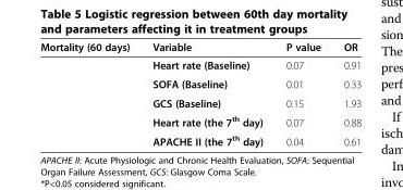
<table><thead><tr><td>Mortality (60 days)</td><td>Variable</td><td>P value</td><td>OR</td></tr></thead><tbody><tr><td></td><td>Heart rate (Baseline)</td><td>0.07</td><td>0.91</td></tr><tr><td></td><td>SOFA (Baseline)</td><td>0.01</td><td>0.33</td></tr><tr><td></td><td>GCS (Baseline)</td><td>0.15</td><td>1.93</td></tr><tr><td></td><td>Heart rate (the 7<sup>th</sup> day)</td><td>0.07</td><td>0.88</td></tr><tr><td></td><td>APACHE II (the 7<sup>th</sup> day)</td><td>0.04</td><td>0.61</td></tr></tbody></table>